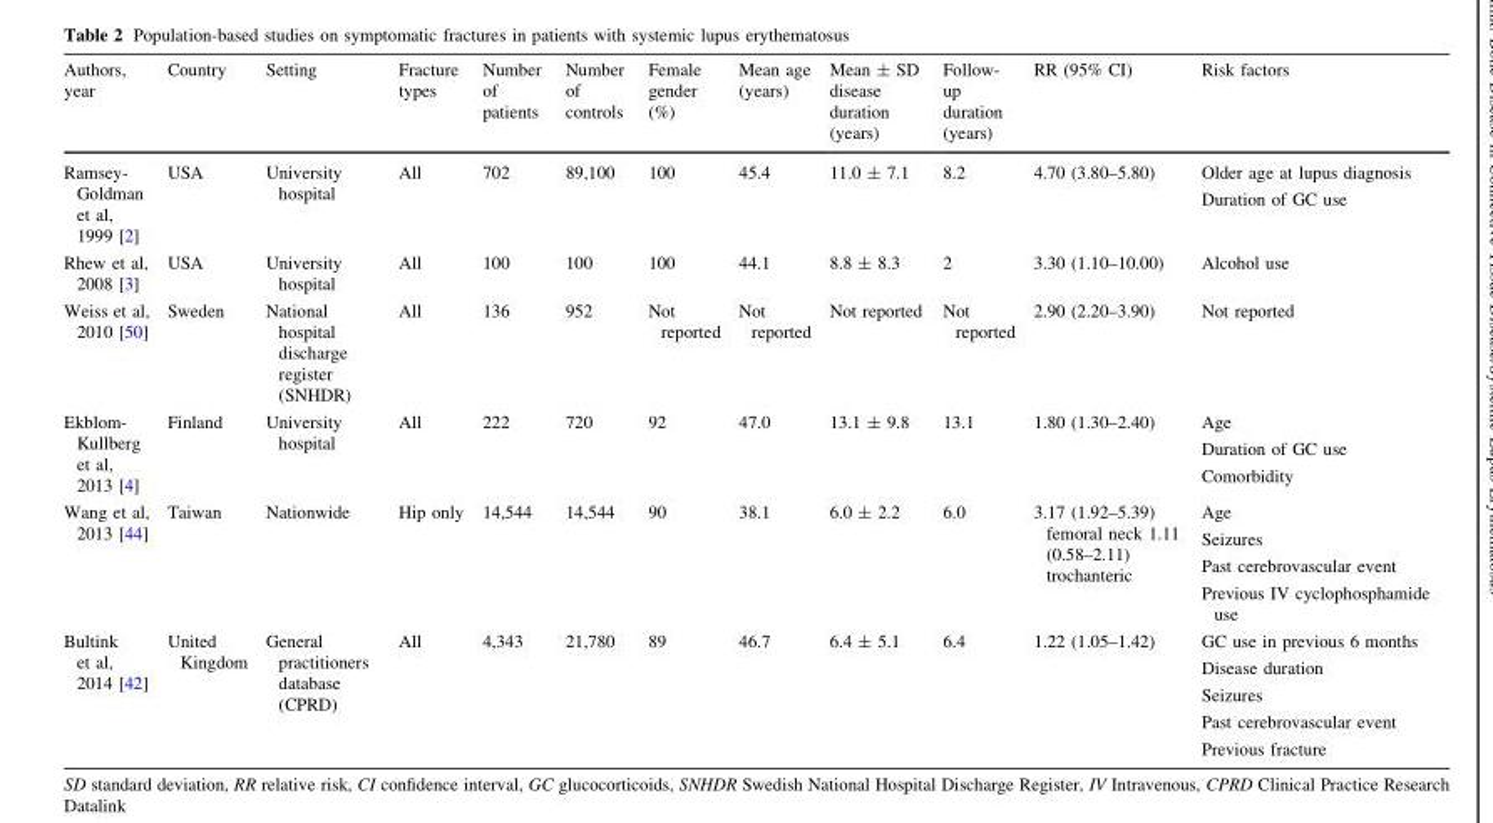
<table><thead><tr><td>Authors, year</td><td>Country</td><td>Setting</td><td>Fracture types</td><td>Number of patients</td><td>Number of controls</td><td>Female gender (%)</td><td>Mean age (years)</td><td>Mean ± SD disease duration (years)</td><td>Follow- up duration (years)</td><td>RR (95% CI)</td><td>Risk factors</td></tr></thead><tbody><tr><td>Ramsey- Goldman et al, 1999 [2]</td><td>USA</td><td>University hospital</td><td>All</td><td>702</td><td>89,100</td><td>100</td><td>45.4</td><td>11.0 ± 7.1</td><td>8.2</td><td>4.70 (3.80–5.80)</td><td>Older age at lupus diagnosis Duration of GC use</td></tr><tr><td>Rhew et al, 2008 [3]</td><td>USA</td><td>University hospital</td><td>All</td><td>100</td><td>100</td><td>100</td><td>44.1</td><td>8.8 ± 8.3</td><td>2</td><td>3.30 (1.10–10.00)</td><td>Alcohol use</td></tr><tr><td>Weiss et al, 2010 [50]</td><td>Sweden</td><td>National hospital discharge register (SNHDR)</td><td>All</td><td>136</td><td>952</td><td>Not reported</td><td>Not reported</td><td>Not reported</td><td>Not reported</td><td>2.90 (2.20–3.90)</td><td>Not reported</td></tr><tr><td>Ekblom- Kullberg et al, 2013 [4]</td><td>Finland</td><td>University hospital</td><td>All</td><td>222</td><td>720</td><td>92</td><td>47.0</td><td>13.1 ± 9.8</td><td>13.1</td><td>1.80 (1.30–2.40)</td><td>Age Duration of GC use Comorbidity</td></tr><tr><td>Wang et al, 2013 [44]</td><td>Taiwan</td><td>Nationwide</td><td>Hip only</td><td>14,544</td><td>14,544</td><td>90</td><td>38.1</td><td>6.0 ± 2.2</td><td>6.0</td><td>3.17 (1.92–5.39) femoral neck 1.11 (0.58–2.11) trochanteric</td><td>Age Seizures Past cerebrovascular event Previous IV cyclophosphamide use</td></tr><tr><td>Bultink et al, 2014 [42]</td><td>United Kingdom</td><td>General practitioners database (CPRD)</td><td>All</td><td>4,343</td><td>21,780</td><td>89</td><td>46.7</td><td>6.4 ± 5.1</td><td>6.4</td><td>1.22 (1.05–1.42)</td><td>GC use in previous 6 months Disease duration Seizures Past cerebrovascular event Previous fracture</td></tr></tbody></table>